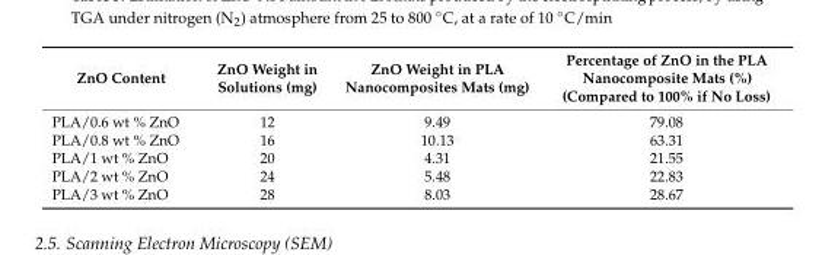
<table><thead><tr><td>ZnO Content</td><td>ZnO Weight in Solutions (mg)</td><td>ZnO Weight in PLA Nanocomposites Mats (mg)</td><td>Percentage of ZnO in the PLA Nanocomposite Mats (%) (Compared to 100% if No Loss)</td></tr></thead><tbody><tr><td>PLA/0.6 wt % ZnO</td><td>12</td><td>9.49</td><td>79.08</td></tr><tr><td>PLA/0.8 wt % ZnO</td><td>16</td><td>10.13</td><td>63.31</td></tr><tr><td>PLA/1 wt % ZnO</td><td>20</td><td>4.31</td><td>21.55</td></tr><tr><td>PLA/2 wt % ZnO</td><td>24</td><td>5.48</td><td>22.83</td></tr><tr><td>PLA/3 wt % ZnO</td><td>28</td><td>8.03</td><td>28.67</td></tr></tbody></table>